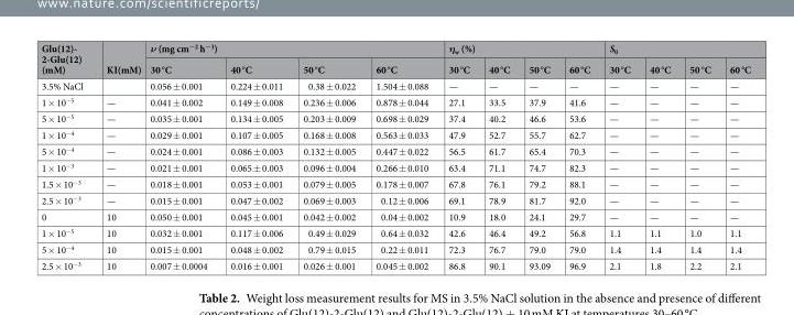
<table><thead><tr><td rowspan="2">Glu(12)- 2-Glu(12) (mM)</td><td rowspan="2">KI(mM)</td><td colspan="4">ν (mg cm<sup>−2</sup> h<sup>−1</sup>)</td><td colspan="4">η<sub>w</sub> (%)</td><td colspan="4">S<sub>θ</sub></td></tr><tr><td>30 °C</td><td>40 °C</td><td>50 °C</td><td>60 °C</td><td>30 °C</td><td>40 °C</td><td>50 °C</td><td>60 °C</td><td>30 °C</td><td>40 °C</td><td>50 °C</td><td>60 °C</td></tr></thead><tbody><tr><td>3.5% NaCl</td><td></td><td>0.056 ± 0.001</td><td>0.224 ± 0.011</td><td>0.38 ± 0.022</td><td>1.504 ± 0.088</td><td>—</td><td>—</td><td>—</td><td>—</td><td>—</td><td>—</td><td>—</td><td>—</td></tr><tr><td>1 × 10<sup>−5</sup></td><td>—</td><td>0.041 ± 0.002</td><td>0.149 ± 0.008</td><td>0.236 ± 0.006</td><td>0.878 ± 0.044</td><td>27.1</td><td>33.5</td><td>37.9</td><td>41.6</td><td>—</td><td>—</td><td>—</td><td>—</td></tr><tr><td>5 × 10<sup>−5</sup></td><td>—</td><td>0.035 ± 0.001</td><td>0.134 ± 0.005</td><td>0.203 ± 0.009</td><td>0.698 ± 0.029</td><td>37.4</td><td>40.2</td><td>46.6</td><td>53.6</td><td>—</td><td>—</td><td>—</td><td>—</td></tr><tr><td>1 × 10<sup>−4</sup></td><td>—</td><td>0.029 ± 0.001</td><td>0.107 ± 0.005</td><td>0.168 ± 0.008</td><td>0.563 ± 0.033</td><td>47.9</td><td>52.7</td><td>55.7</td><td>62.7</td><td>—</td><td>—</td><td>—</td><td>—</td></tr><tr><td>5 × 10<sup>−4</sup></td><td>—</td><td>0.024 ± 0.001</td><td>0.086 ± 0.003</td><td>0.132 ± 0.005</td><td>0.447 ± 0.022</td><td>56.5</td><td>61.7</td><td>65.4</td><td>70.3</td><td>—</td><td>—</td><td>—</td><td>—</td></tr><tr><td>1 × 10<sup>−3</sup></td><td>—</td><td>0.021 ± 0.001</td><td>0.065 ± 0.003</td><td>0.096 ± 0.004</td><td>0.266 ± 0.010</td><td>63.4</td><td>71.1</td><td>74.7</td><td>82.3</td><td>—</td><td>—</td><td>—</td><td>—</td></tr><tr><td>1.5 × 10<sup>−3</sup></td><td>—</td><td>0.018 ± 0.001</td><td>0.053 ± 0.001</td><td>0.079 ± 0.005</td><td>0.178 ± 0.007</td><td>67.8</td><td>76.1</td><td>79.2</td><td>88.1</td><td>—</td><td>—</td><td>—</td><td>—</td></tr><tr><td>2.5 × 10<sup>−3</sup></td><td>—</td><td>0.015 ± 0.001</td><td>0.047 ± 0.002</td><td>0.069 ± 0.003</td><td>0.12 ± 0.006</td><td>69.1</td><td>78.9</td><td>81.7</td><td>92.0</td><td>—</td><td>—</td><td>—</td><td>—</td></tr><tr><td>0</td><td>10</td><td>0.050 ± 0.001</td><td>0.045 ± 0.001</td><td>0.042 ± 0.002</td><td>0.04 ± 0.002</td><td>10.9</td><td>18.0</td><td>24.1</td><td>29.7</td><td>—</td><td>—</td><td>—</td><td>—</td></tr><tr><td>1 × 10<sup>−5</sup></td><td>10</td><td>0.032 ± 0.001</td><td>0.117 ± 0.006</td><td>0.49 ± 0.029</td><td>0.64 ± 0.032</td><td>42.6</td><td>46.4</td><td>49.2</td><td>56.8</td><td>1.1</td><td>1.1</td><td>1.0</td><td>1.1</td></tr><tr><td>5 × 10<sup>−4</sup></td><td>10</td><td>0.015 ± 0.001</td><td>0.048 ± 0.002</td><td>0.79 ± 0.015</td><td>0.22 ± 0.011</td><td>72.3</td><td>76.7</td><td>79.0</td><td>79.0</td><td>1.4</td><td>1.4</td><td>1.4</td><td>1.4</td></tr><tr><td>2.5 × 10<sup>−3</sup></td><td>10</td><td>0.007 ± 0.0004</td><td>0.016 ± 0.001</td><td>0.026 ± 0.001</td><td>0.045 ± 0.002</td><td>86.8</td><td>90.1</td><td>93.09</td><td>96.9</td><td>2.1</td><td>1.8</td><td>2.2</td><td>2.1</td></tr></tbody></table>